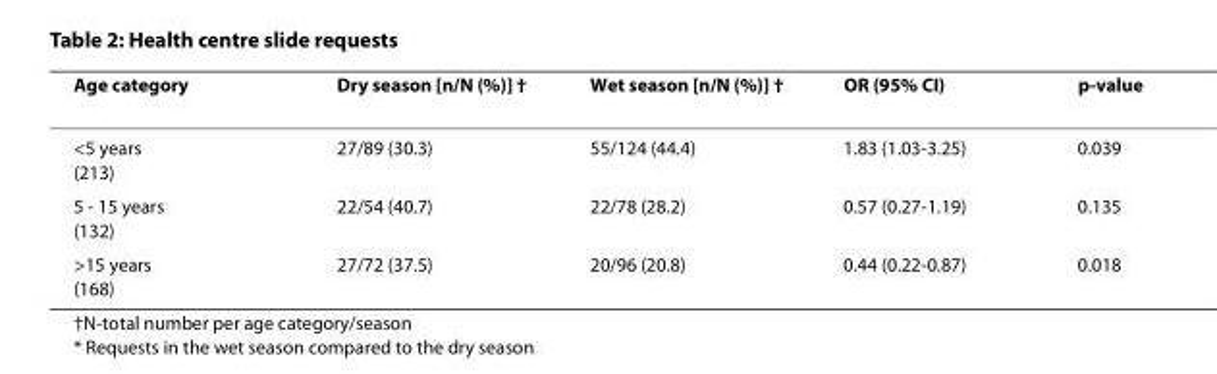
<table><thead><tr><td>Age category</td><td>Dry season [n/N (%)] †</td><td>Wet season [n/N (%)] †</td><td>OR (95% CI)</td><td>p-value</td></tr></thead><tbody><tr><td>&lt;5 years (213)</td><td>27/89 (30.3)</td><td>55/124 (44.4)</td><td>1.83 (1.03-3.25)</td><td>0.039</td></tr><tr><td>5 - 15 years (132)</td><td>22/54 (40.7)</td><td>22/78 (28.2)</td><td>0.57 (0.27-1.19)</td><td>0.135</td></tr><tr><td>&gt;15 years (168)</td><td>27/72 (37.5)</td><td>20/96 (20.8)</td><td>0.44 (0.22-0.87)</td><td>0.018</td></tr></tbody></table>